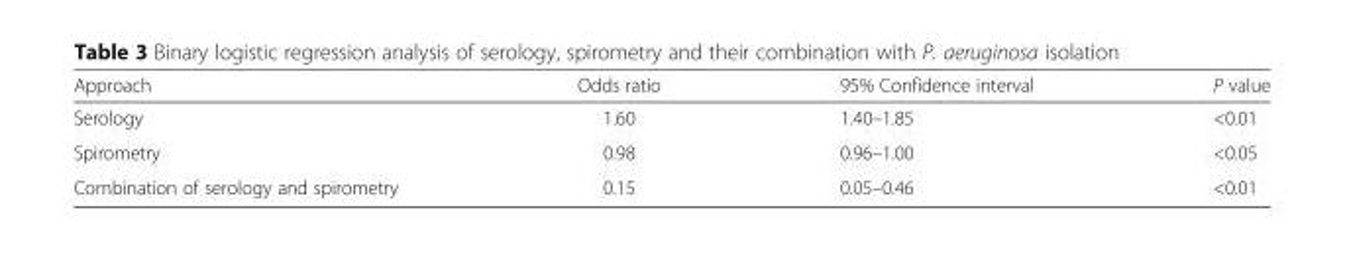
<table><thead><tr><td>Approach</td><td>Odds ratio</td><td>95% Confidence interval</td><td>P value</td></tr></thead><tbody><tr><td>Serology</td><td>1.60</td><td>1.40–1.85</td><td>&lt;0.01</td></tr><tr><td>Spirometry</td><td>0.98</td><td>0.96–1.00</td><td>&lt;0.05</td></tr><tr><td>Combination of serology and spirometry</td><td>0.15</td><td>0.05–0.46</td><td>&lt;0.01</td></tr></tbody></table>